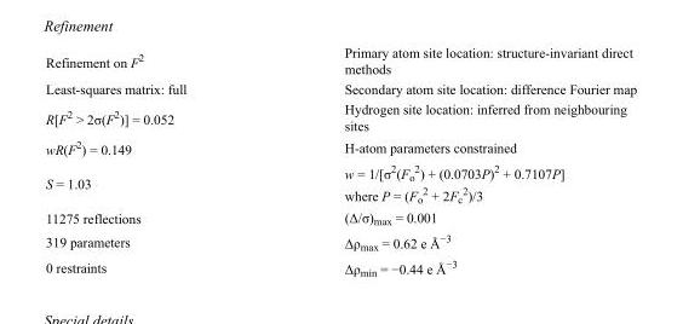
<table><tbody><tr><td>Refinement on F<sup>2</sup></td><td>Primary atom site location: structure-invariant direct methods</td></tr><tr><td>Least-squares matrix: full</td><td>Secondary atom site location: difference Fourier map</td></tr><tr><td>R[F<sup>2</sup> &gt; 2σ(F<sup>2</sup>)] = 0.052</td><td>Hydrogen site location: inferred from neighbouring sites</td></tr><tr><td>wR(F<sup>2</sup>) = 0.149</td><td>H-atom parameters constrained</td></tr><tr><td>S = 1.03</td><td>w = 1/[σ<sup>2</sup>(F<sub>o</sub> <sup>2</sup>) + (0.0703P)<sup>2</sup> + 0.7107P] where P = (F<sub>o</sub> <sup>2</sup> + 2F<sub>c</sub> <sup>2</sup>)/3</td></tr><tr><td>11275 reflections</td><td>(Δ/σ)<sub>max</sub> = 0.001</td></tr><tr><td>319 parameters</td><td>Δρ<sub>max</sub> = 0.62 e Å<sup>−3</sup></td></tr><tr><td>0 restraints</td><td>Δρ<sub>min</sub> = −0.44 e Å<sup>−3</sup></td></tr></tbody></table>